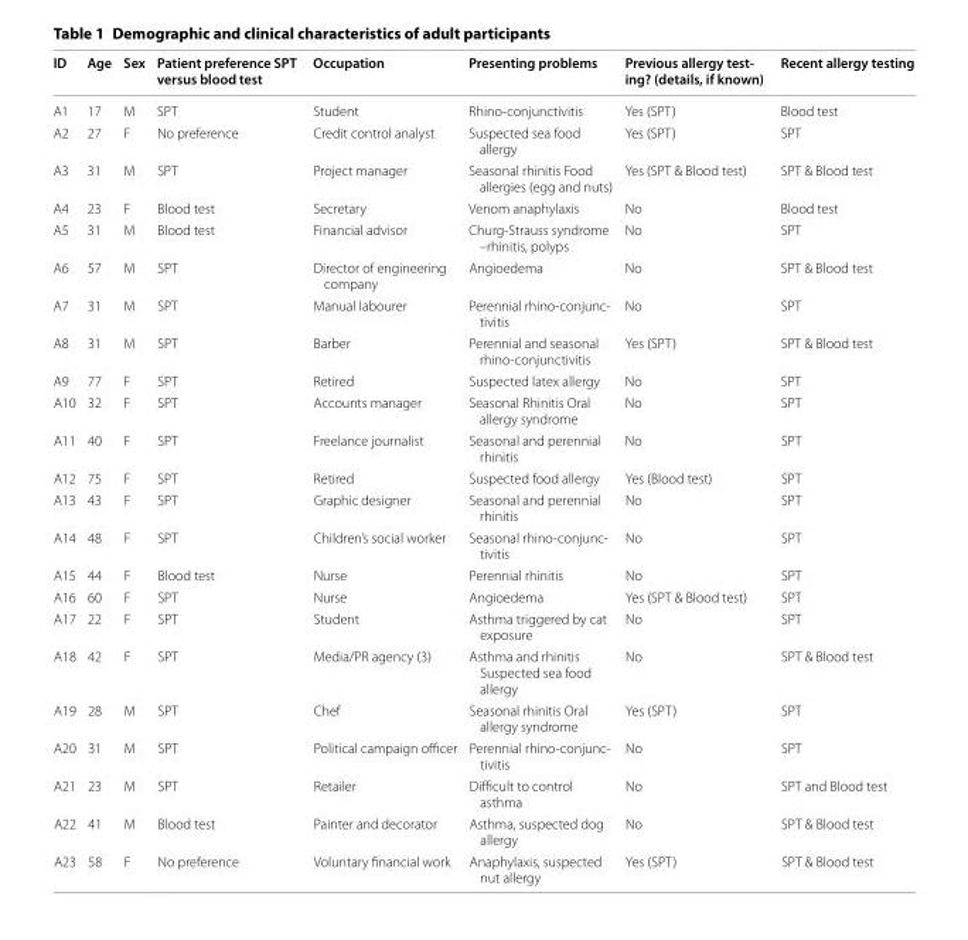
<table><thead><tr><td>ID</td><td>Age</td><td>Sex</td><td>Patient preference SPT versus blood test</td><td>Occupation</td><td>Presenting problems</td><td>Previous allergy test- ing? (details, if known)</td><td>Recent allergy testing</td></tr></thead><tbody><tr><td>A1</td><td>17</td><td>M</td><td>SPT</td><td>Student</td><td>Rhino-conjunctivitis</td><td>Yes (SPT)</td><td>Blood test</td></tr><tr><td>A2</td><td>27</td><td>F</td><td>No preference</td><td>Credit control analyst</td><td>Suspected sea food allergy</td><td>Yes (SPT)</td><td>SPT</td></tr><tr><td>A3</td><td>31</td><td>M</td><td>SPT</td><td>Project manager</td><td>Seasonal rhinitis Food allergies (egg and nuts)</td><td>Yes (SPT &amp; Blood test)</td><td>SPT &amp; Blood test</td></tr><tr><td>A4</td><td>23</td><td>F</td><td>Blood test</td><td>Secretary</td><td>Venom anaphylaxis</td><td>No</td><td>Blood test</td></tr><tr><td>A5</td><td>31</td><td>M</td><td>Blood test</td><td>Financial advisor</td><td>Churg-Strauss syndrome –rhinitis, polyps</td><td>No</td><td>SPT</td></tr><tr><td>A6</td><td>57</td><td>M</td><td>SPT</td><td>Director of engineering company</td><td>Angioedema</td><td>No</td><td>SPT &amp; Blood test</td></tr><tr><td>A7</td><td>31</td><td>M</td><td>SPT</td><td>Manual labourer</td><td>Perennial rhino-conjunc- tivitis</td><td>No</td><td>SPT</td></tr><tr><td>A8</td><td>31</td><td>M</td><td>SPT</td><td>Barber</td><td>Perennial and seasonal rhino-conjunctivitis</td><td>Yes (SPT)</td><td>SPT &amp; Blood test</td></tr><tr><td>A9</td><td>77</td><td>F</td><td>SPT</td><td>Retired</td><td>Suspected latex allergy</td><td>No</td><td>SPT</td></tr><tr><td>A10</td><td>32</td><td>F</td><td>SPT</td><td>Accounts manager</td><td>Seasonal Rhinitis Oral allergy syndrome</td><td>No</td><td>SPT</td></tr><tr><td>A11</td><td>40</td><td>F</td><td>SPT</td><td>Freelance journalist</td><td>Seasonal and perennial rhinitis</td><td>No</td><td>SPT</td></tr><tr><td>A12</td><td>75</td><td>F</td><td>SPT</td><td>Retired</td><td>Suspected food allergy</td><td>Yes (Blood test)</td><td>SPT</td></tr><tr><td>A13</td><td>43</td><td>F</td><td>SPT</td><td>Graphic designer</td><td>Seasonal and perennial rhinitis</td><td>No</td><td>SPT</td></tr><tr><td>A14</td><td>48</td><td>F</td><td>SPT</td><td>Children’s social worker</td><td>Seasonal rhino-conjunc- tivitis</td><td>No</td><td>SPT</td></tr><tr><td>A15</td><td>44</td><td>F</td><td>Blood test</td><td>Nurse</td><td>Perennial rhinitis</td><td>No</td><td>SPT</td></tr><tr><td>A16</td><td>60</td><td>F</td><td>SPT</td><td>Nurse</td><td>Angioedema</td><td>Yes (SPT &amp; Blood test)</td><td>SPT</td></tr><tr><td>A17</td><td>22</td><td>F</td><td>SPT</td><td>Student</td><td>Asthma triggered by cat exposure</td><td>No</td><td>SPT</td></tr><tr><td>A18</td><td>42</td><td>F</td><td>SPT</td><td>Media/PR agency (3)</td><td>Asthma and rhinitis Suspected sea food allergy</td><td>No</td><td>SPT &amp; Blood test</td></tr><tr><td>A19</td><td>28</td><td>M</td><td>SPT</td><td>Chef</td><td>Seasonal rhinitis Oral allergy syndrome</td><td>Yes (SPT)</td><td>SPT</td></tr><tr><td>A20</td><td>31</td><td>M</td><td>SPT</td><td>Political campaign officer</td><td>Perennial rhino-conjunc- tivitis</td><td>No</td><td>SPT</td></tr><tr><td>A21</td><td>23</td><td>M</td><td>SPT</td><td>Retailer</td><td>Difficult to control asthma</td><td>No</td><td>SPT and Blood test</td></tr><tr><td>A22</td><td>41</td><td>M</td><td>Blood test</td><td>Painter and decorator</td><td>Asthma, suspected dog allergy</td><td>No</td><td>SPT &amp; Blood test</td></tr><tr><td>A23</td><td>58</td><td>F</td><td>No preference</td><td>Voluntary financial work</td><td>Anaphylaxis, suspected nut allergy</td><td>Yes (SPT)</td><td>SPT &amp; Blood test</td></tr></tbody></table>